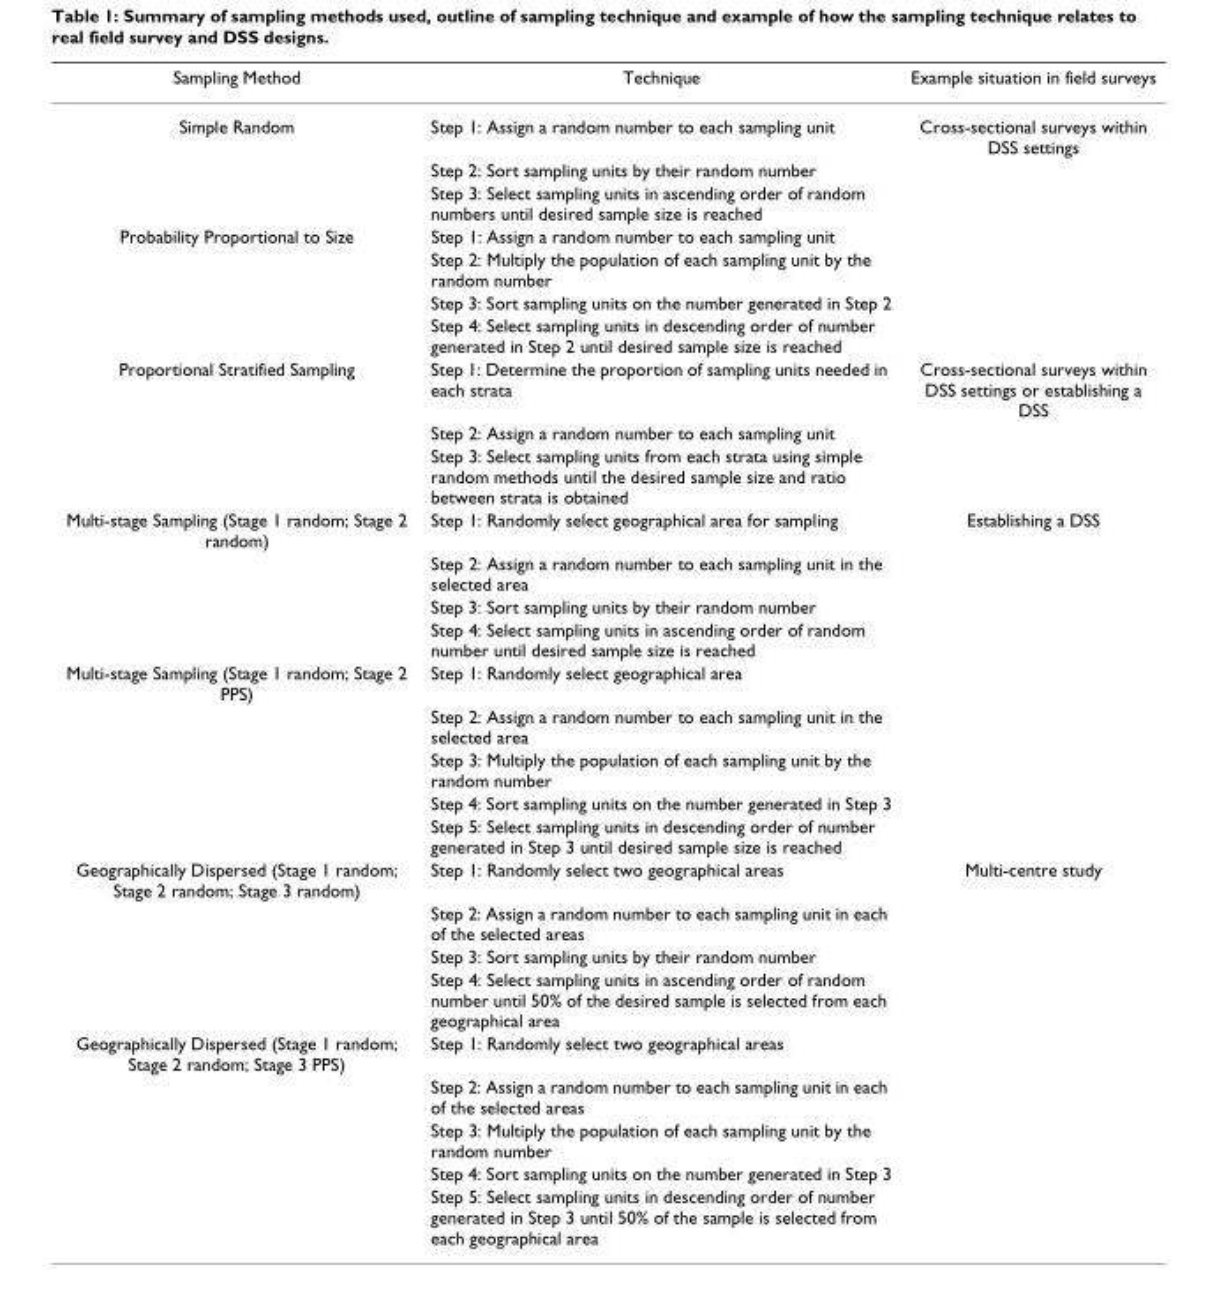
<table><thead><tr><td>Sampling Method</td><td>Technique</td><td>Example situation in field surveys</td></tr></thead><tbody><tr><td rowspan="3">Simple Random</td><td>Step 1: Assign a random number to each sampling unit</td><td>Cross-sectional surveys within DSS settings</td></tr><tr><td>Step 2: Sort sampling units by their random number</td><td></td></tr><tr><td>Step 3: Select sampling units in ascending order of random numbers until desired sample size is reached</td><td></td></tr><tr><td rowspan="4">Probability Proportional to Size</td><td>Step 1: Assign a random number to each sampling unit</td><td></td></tr><tr><td>Step 2: Multiply the population of each sampling unit by the random number</td><td></td></tr><tr><td>Step 3: Sort sampling units on the number generated in Step 2</td><td></td></tr><tr><td>Step 4: Select sampling units in descending order of number generated in Step 2 until desired sample size is reached</td><td></td></tr><tr><td rowspan="3">Proportional Stratified Sampling</td><td>Step 1: Determine the proportion of sampling units needed in each strata</td><td>Cross-sectional surveys within DSS settings or establishing a DSS</td></tr><tr><td>Step 2: Assign a random number to each sampling unit</td><td></td></tr><tr><td>Step 3: Select sampling units from each strata using simple random methods until the desired sample size and ratio between strata is obtained</td><td></td></tr><tr><td rowspan="4">Multi-stage Sampling (Stage 1 random; Stage 2 random)</td><td>Step 1: Randomly select geographical area for sampling</td><td>Establishing a DSS</td></tr><tr><td>Step 2: Assign a random number to each sampling unit in the selected area</td><td></td></tr><tr><td>Step 3: Sort sampling units by their random number</td><td></td></tr><tr><td>Step 4: Select sampling units in ascending order of random number until desired sample size is reached</td><td></td></tr><tr><td rowspan="5">Multi-stage Sampling (Stage 1 random; Stage 2 PPS)</td><td>Step 1: Randomly select geographical area</td><td></td></tr><tr><td>Step 2: Assign a random number to each sampling unit in the selected area</td><td></td></tr><tr><td>Step 3: Multiply the population of each sampling unit by the random number</td><td></td></tr><tr><td>Step 4: Sort sampling units on the number generated in Step 3</td><td></td></tr><tr><td>Step 5: Select sampling units in descending order of number generated in Step 3 until desired sample size is reached</td><td></td></tr><tr><td rowspan="4">Geographically Dispersed (Stage 1 random; Stage 2 random; Stage 3 random)</td><td>Step 1: Randomly select two geographical areas</td><td>Multi-centre study</td></tr><tr><td>Step 2: Assign a random number to each sampling unit in each of the selected areas</td><td></td></tr><tr><td>Step 3: Sort sampling units by their random number</td><td></td></tr><tr><td>Step 4: Select sampling units in ascending order of random number until 50% of the desired sample is selected from each geographical area</td><td></td></tr><tr><td rowspan="5">Geographically Dispersed (Stage 1 random; Stage 2 random; Stage 3 PPS)</td><td>Step 1: Randomly select two geographical areas</td><td></td></tr><tr><td>Step 2: Assign a random number to each sampling unit in each of the selected areas</td><td></td></tr><tr><td>Step 3: Multiply the population of each sampling unit by the random number</td><td></td></tr><tr><td>Step 4: Sort sampling units on the number generated in Step 3</td><td></td></tr><tr><td>Step 5: Select sampling units in descending order of number generated in Step 3 until 50% of the sample is selected from each geographical area</td><td></td></tr></tbody></table>